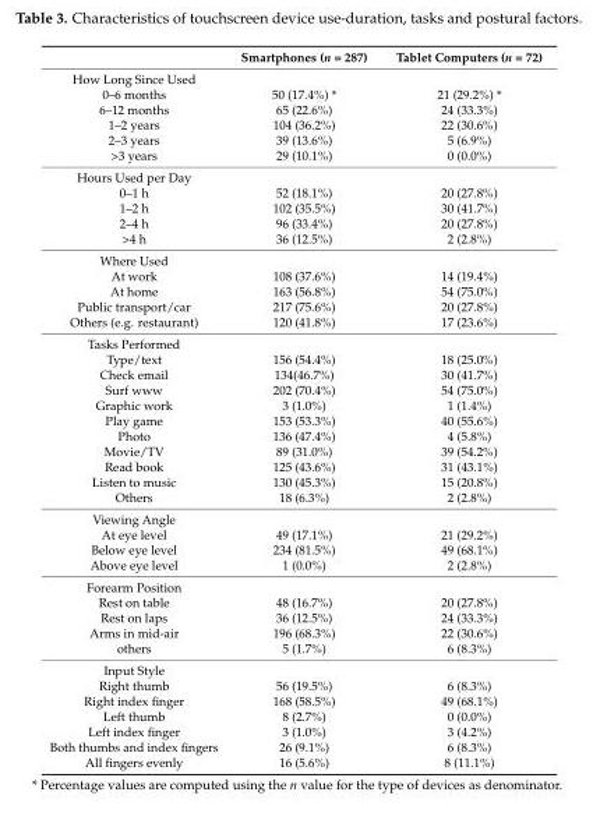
<table><thead><tr><td></td><td>Smartphones (n = 287)</td><td>Tablet Computers (n = 72)</td></tr></thead><tbody><tr><td colspan="3">How Long Since Used</td></tr><tr><td>0–6 months</td><td>50 (17.4%) *</td><td>21 (29.2%) *</td></tr><tr><td>6–12 months</td><td>65 (22.6%)</td><td>24 (33.3%)</td></tr><tr><td>1–2 years</td><td>104 (36.2%)</td><td>22 (30.6%)</td></tr><tr><td>2–3 years</td><td>39 (13.6%)</td><td>5 (6.9%)</td></tr><tr><td>&gt;3 years</td><td>29 (10.1%)</td><td>0 (0.0%)</td></tr><tr><td colspan="3">Hours Used per Day</td></tr><tr><td>0–1 h</td><td>52 (18.1%)</td><td>20 (27.8%)</td></tr><tr><td>1–2 h</td><td>102 (35.5%)</td><td>30 (41.7%)</td></tr><tr><td>2–4 h</td><td>96 (33.4%)</td><td>20 (27.8%)</td></tr><tr><td>&gt;4 h</td><td>36 (12.5%)</td><td>2 (2.8%)</td></tr><tr><td colspan="3">Where Used</td></tr><tr><td>At work</td><td>108 (37.6%)</td><td>14 (19.4%)</td></tr><tr><td>At home</td><td>163 (56.8%)</td><td>54 (75.0%)</td></tr><tr><td>Public transport/car</td><td>217 (75.6%)</td><td>20 (27.8%)</td></tr><tr><td>Others (e.g. restaurant)</td><td>120 (41.8%)</td><td>17 (23.6%)</td></tr><tr><td colspan="3">Tasks Performed</td></tr><tr><td>Type/text</td><td>156 (54.4%)</td><td>18 (25.0%)</td></tr><tr><td>Check email</td><td>134(46.7%)</td><td>30 (41.7%)</td></tr><tr><td>Surf www</td><td>202 (70.4%)</td><td>54 (75.0%)</td></tr><tr><td>Graphic work</td><td>3 (1.0%)</td><td>1 (1.4%)</td></tr><tr><td>Play game</td><td>153 (53.3%)</td><td>40 (55.6%)</td></tr><tr><td>Photo</td><td>136 (47.4%)</td><td>4 (5.8%)</td></tr><tr><td>Movie/TV</td><td>89 (31.0%)</td><td>39 (54.2%)</td></tr><tr><td>Read book</td><td>125 (43.6%)</td><td>31 (43.1%)</td></tr><tr><td>Listen to music</td><td>130 (45.3%)</td><td>15 (20.8%)</td></tr><tr><td>Others</td><td>18 (6.3%)</td><td>2 (2.8%)</td></tr><tr><td colspan="3">Viewing Angle</td></tr><tr><td>At eye level</td><td>49 (17.1%)</td><td>21 (29.2%)</td></tr><tr><td>Below eye level</td><td>234 (81.5%)</td><td>49 (68.1%)</td></tr><tr><td>Above eye level</td><td>1 (0.0%)</td><td>2 (2.8%)</td></tr><tr><td colspan="3">Forearm Position</td></tr><tr><td>Rest on table</td><td>48 (16.7%)</td><td>20 (27.8%)</td></tr><tr><td>Rest on laps</td><td>36 (12.5%)</td><td>24 (33.3%)</td></tr><tr><td>Arms in mid-air</td><td>196 (68.3%)</td><td>22 (30.6%)</td></tr><tr><td>others</td><td>5 (1.7%)</td><td>6 (8.3%)</td></tr><tr><td colspan="3">Input Style</td></tr><tr><td>Right thumb</td><td>56 (19.5%)</td><td>6 (8.3%)</td></tr><tr><td>Right index finger</td><td>168 (58.5%)</td><td>49 (68.1%)</td></tr><tr><td>Left thumb</td><td>8 (2.7%)</td><td>0 (0.0%)</td></tr><tr><td>Left index finger</td><td>3 (1.0%)</td><td>3 (4.2%)</td></tr><tr><td>Both thumbs and index fingers</td><td>26 (9.1%)</td><td>6 (8.3%)</td></tr><tr><td>All fingers evenly</td><td>16 (5.6%)</td><td>8 (11.1%)</td></tr></tbody></table>